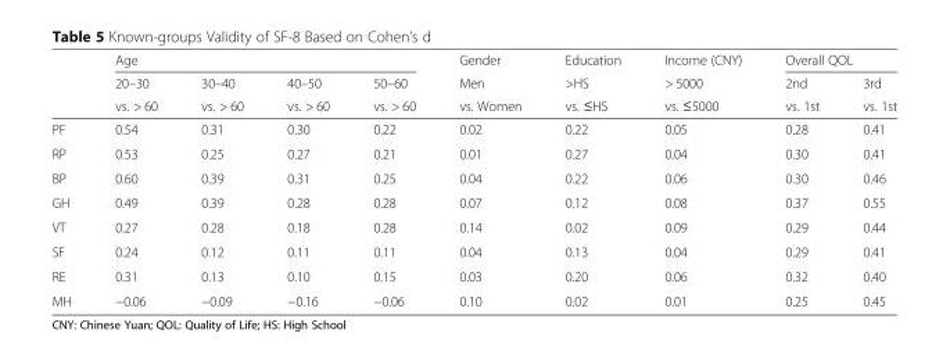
<table><thead><tr><td rowspan="3"></td><td colspan="4">Age</td><td rowspan="3">Gender Men vs. Women</td><td rowspan="3">Education &gt;HS vs. ≤HS</td><td rowspan="3">Income (CNY) &gt; 5000 vs. ≤5000</td><td colspan="2">Overall QOL</td></tr><tr><td rowspan="2">20–30 vs. &gt; 60</td><td rowspan="2">30–40 vs. &gt; 60</td><td rowspan="2">40–50 vs. &gt; 60</td><td rowspan="2">50–60 vs. &gt; 60</td><td rowspan="2">2nd vs. 1st</td><td rowspan="2">3rd vs. 1st</td></tr><tr></tr></thead><tbody><tr><td>PF</td><td>0.54</td><td>0.31</td><td>0.30</td><td>0.22</td><td>0.02</td><td>0.22</td><td>0.05</td><td>0.28</td><td>0.41</td></tr><tr><td>RP</td><td>0.53</td><td>0.25</td><td>0.27</td><td>0.21</td><td>0.01</td><td>0.27</td><td>0.04</td><td>0.30</td><td>0.41</td></tr><tr><td>BP</td><td>0.60</td><td>0.39</td><td>0.31</td><td>0.25</td><td>0.04</td><td>0.22</td><td>0.06</td><td>0.30</td><td>0.46</td></tr><tr><td>GH</td><td>0.49</td><td>0.39</td><td>0.28</td><td>0.28</td><td>0.07</td><td>0.12</td><td>0.08</td><td>0.37</td><td>0.55</td></tr><tr><td>VT</td><td>0.27</td><td>0.28</td><td>0.18</td><td>0.28</td><td>0.14</td><td>0.02</td><td>0.09</td><td>0.29</td><td>0.44</td></tr><tr><td>SF</td><td>0.24</td><td>0.12</td><td>0.11</td><td>0.11</td><td>0.04</td><td>0.13</td><td>0.04</td><td>0.29</td><td>0.41</td></tr><tr><td>RE</td><td>0.31</td><td>0.13</td><td>0.10</td><td>0.15</td><td>0.03</td><td>0.20</td><td>0.06</td><td>0.32</td><td>0.40</td></tr><tr><td>MH</td><td>−0.06</td><td>−0.09</td><td>−0.16</td><td>−0.06</td><td>0.10</td><td>0.02</td><td>0.01</td><td>0.25</td><td>0.45</td></tr></tbody></table>